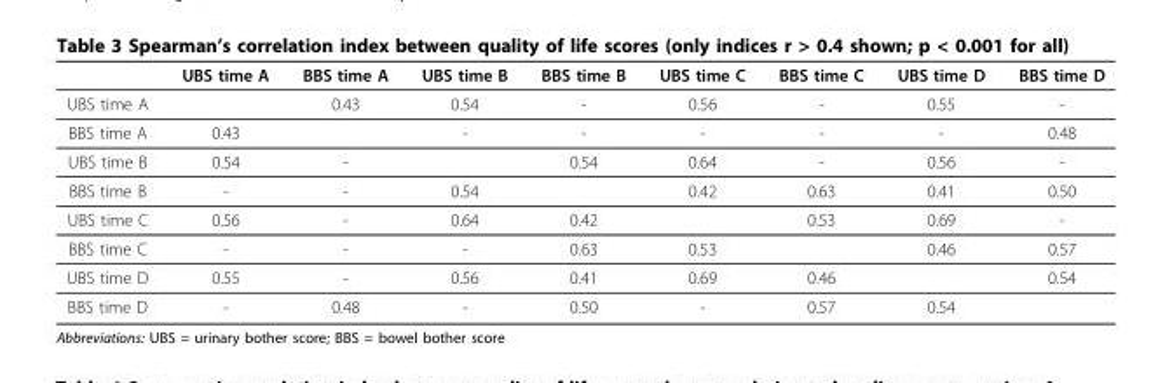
<table><thead><tr><td></td><td>UBS time A</td><td>BBS time A</td><td>UBS time B</td><td>BBS time B</td><td>UBS time C</td><td>BBS time C</td><td>UBS time D</td><td>BBS time D</td></tr></thead><tbody><tr><td>UBS time A</td><td></td><td>0.43</td><td>0.54</td><td>-</td><td>0.56</td><td>-</td><td>0.55</td><td>-</td></tr><tr><td>BBS time A</td><td>0.43</td><td></td><td>-</td><td>-</td><td>-</td><td>-</td><td>-</td><td>0.48</td></tr><tr><td>UBS time B</td><td>0.54</td><td>-</td><td></td><td>0.54</td><td>0.64</td><td>-</td><td>0.56</td><td>-</td></tr><tr><td>BBS time B</td><td>-</td><td>-</td><td>0.54</td><td></td><td>0.42</td><td>0.63</td><td>0.41</td><td>0.50</td></tr><tr><td>UBS time C</td><td>0.56</td><td>-</td><td>0.64</td><td>0.42</td><td></td><td>0.53</td><td>0.69</td><td>-</td></tr><tr><td>BBS time C</td><td>-</td><td>-</td><td>-</td><td>0.63</td><td>0.53</td><td></td><td>0.46</td><td>0.57</td></tr><tr><td>UBS time D</td><td>0.55</td><td>-</td><td>0.56</td><td>0.41</td><td>0.69</td><td>0.46</td><td></td><td>0.54</td></tr><tr><td>BBS time D</td><td>-</td><td>0.48</td><td>-</td><td>0.50</td><td>-</td><td>0.57</td><td>0.54</td><td></td></tr></tbody></table>